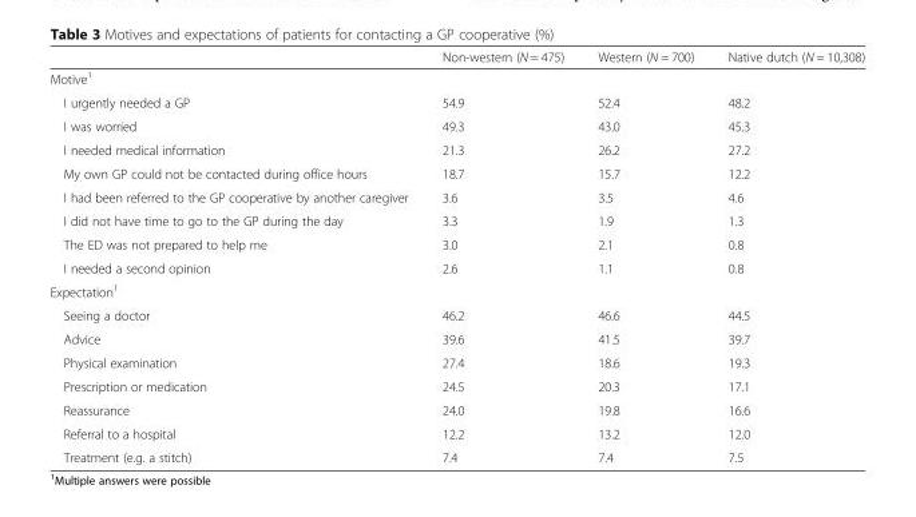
<table><thead><tr><td></td><td>Non-western (N = 475)</td><td>Western (N = 700)</td><td>Native dutch (N = 10,308)</td></tr></thead><tbody><tr><td colspan="4">Motive<sup>1</sup></td></tr><tr><td>I urgently needed a GP</td><td>54.9</td><td>52.4</td><td>48.2</td></tr><tr><td>I was worried</td><td>49.3</td><td>43.0</td><td>45.3</td></tr><tr><td>I needed medical information</td><td>21.3</td><td>26.2</td><td>27.2</td></tr><tr><td>My own GP could not be contacted during office hours</td><td>18.7</td><td>15.7</td><td>12.2</td></tr><tr><td>I had been referred to the GP cooperative by another caregiver</td><td>3.6</td><td>3.5</td><td>4.6</td></tr><tr><td>I did not have time to go to the GP during the day</td><td>3.3</td><td>1.9</td><td>1.3</td></tr><tr><td>The ED was not prepared to help me</td><td>3.0</td><td>2.1</td><td>0.8</td></tr><tr><td>I needed a second opinion</td><td>2.6</td><td>1.1</td><td>0.8</td></tr><tr><td colspan="4">Expectation<sup>1</sup></td></tr><tr><td>Seeing a doctor</td><td>46.2</td><td>46.6</td><td>44.5</td></tr><tr><td>Advice</td><td>39.6</td><td>41.5</td><td>39.7</td></tr><tr><td>Physical examination</td><td>27.4</td><td>18.6</td><td>19.3</td></tr><tr><td>Prescription or medication</td><td>24.5</td><td>20.3</td><td>17.1</td></tr><tr><td>Reassurance</td><td>24.0</td><td>19.8</td><td>16.6</td></tr><tr><td>Referral to a hospital</td><td>12.2</td><td>13.2</td><td>12.0</td></tr><tr><td>Treatment (e.g. a stitch)</td><td>7.4</td><td>7.4</td><td>7.5</td></tr></tbody></table>